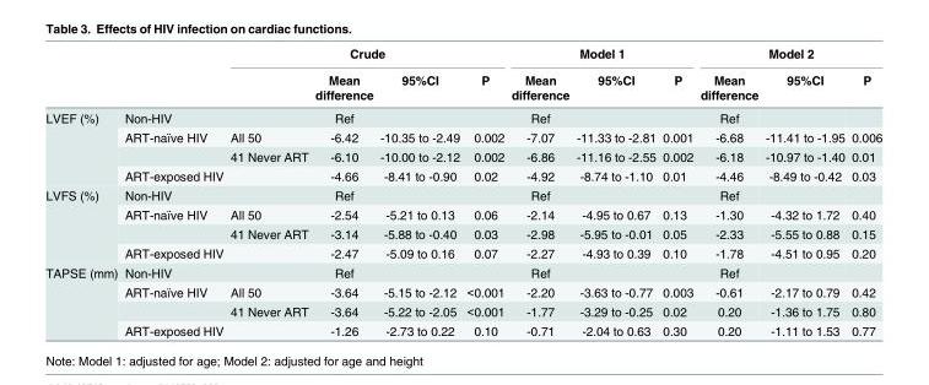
<table><thead><tr><td rowspan="2"></td><td rowspan="2"></td><td colspan="4">Crude</td><td colspan="3">Model 1</td><td colspan="3">Model 2</td></tr><tr><td></td><td>Mean difference</td><td>95%CI</td><td>P</td><td>Mean difference</td><td>95%CI</td><td>P</td><td>Mean difference</td><td>95%CI</td><td>P</td></tr></thead><tbody><tr><td rowspan="4">LVEF (%)</td><td>Non-HIV</td><td></td><td>Ref</td><td></td><td></td><td>Ref</td><td></td><td></td><td>Ref</td><td></td><td></td></tr><tr><td>ART-naïve HIV</td><td>All 50</td><td>-6.42</td><td>-10.35 to -2.49</td><td>0.002</td><td>-7.07</td><td>-11.33 to -2.81</td><td>0.001</td><td>-6.68</td><td>-11.41 to -1.95</td><td>0.006</td></tr><tr><td></td><td>41 Never ART</td><td>-6.10</td><td>-10.00 to -2.12</td><td>0.002</td><td>-6.86</td><td>-11.16 to -2.55</td><td>0.002</td><td>-6.18</td><td>-10.97 to -1.40</td><td>0.01</td></tr><tr><td>ART-exposed HIV</td><td></td><td>-4.66</td><td>-8.41 to -0.90</td><td>0.02</td><td>-4.92</td><td>-8.74 to -1.10</td><td>0.01</td><td>-4.46</td><td>-8.49 to -0.42</td><td>0.03</td></tr><tr><td rowspan="4">LVFS (%)</td><td>Non-HIV</td><td></td><td>Ref</td><td></td><td></td><td>Ref</td><td></td><td></td><td>Ref</td><td></td><td></td></tr><tr><td>ART-naïve HIV</td><td>All 50</td><td>-2.54</td><td>-5.21 to 0.13</td><td>0.06</td><td>-2.14</td><td>-4.95 to 0.67</td><td>0.13</td><td>-1.30</td><td>-4.32 to 1.72</td><td>0.40</td></tr><tr><td></td><td>41 Never ART</td><td>-3.14</td><td>-5.88 to -0.40</td><td>0.03</td><td>-2.98</td><td>-5.95 to -0.01</td><td>0.05</td><td>-2.33</td><td>-5.55 to 0.88</td><td>0.15</td></tr><tr><td>ART-exposed HIV</td><td></td><td>-2.47</td><td>-5.09 to 0.16</td><td>0.07</td><td>-2.27</td><td>-4.93 to 0.39</td><td>0.10</td><td>-1.78</td><td>-4.51 to 0.95</td><td>0.20</td></tr><tr><td rowspan="4">TAPSE (mm)</td><td>Non-HIV</td><td></td><td>Ref</td><td></td><td></td><td>Ref</td><td></td><td></td><td>Ref</td><td></td><td></td></tr><tr><td>ART-naïve HIV</td><td>All 50</td><td>-3.64</td><td>-5.15 to -2.12</td><td>&lt;0.001</td><td>-2.20</td><td>-3.63 to -0.77</td><td>0.003</td><td>-0.61</td><td>-2.17 to 0.79</td><td>0.42</td></tr><tr><td></td><td>41 Never ART</td><td>-3.64</td><td>-5.22 to -2.05</td><td>&lt;0.001</td><td>-1.77</td><td>-3.29 to -0.25</td><td>0.02</td><td>0.20</td><td>-1.36 to 1.75</td><td>0.80</td></tr><tr><td>ART-exposed HIV</td><td></td><td>-1.26</td><td>-2.73 to 0.22</td><td>0.10</td><td>-0.71</td><td>-2.04 to 0.63</td><td>0.30</td><td>0.20</td><td>-1.11 to 1.53</td><td>0.77</td></tr></tbody></table>